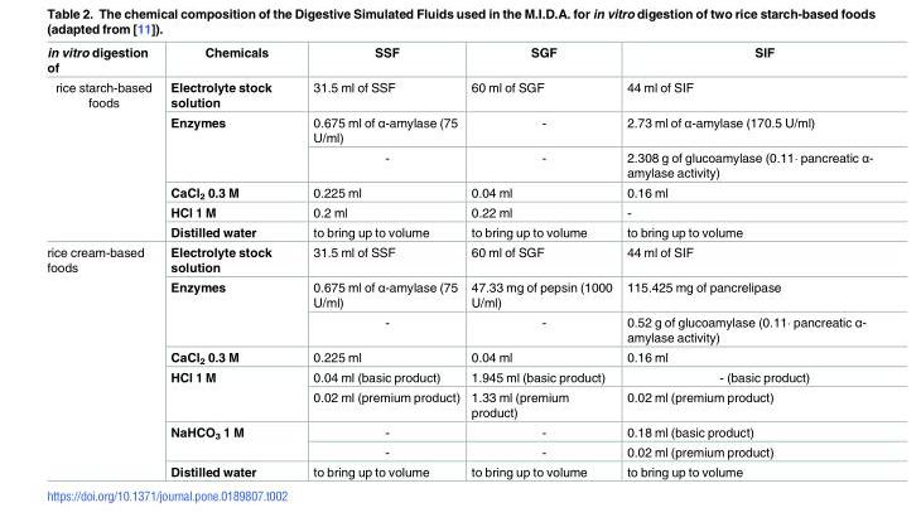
<table><thead><tr><td>in vitro digestion of</td><td>Chemicals</td><td>SSF</td><td>SGF</td><td>SIF</td></tr></thead><tbody><tr><td rowspan="6">rice starch-based foods</td><td>Electrolyte stock solution</td><td>31.5 ml of SSF</td><td>60 ml of SGF</td><td>44 ml of SIF</td></tr><tr><td rowspan="2">Enzymes</td><td>0.675 ml of α-amylase (75 U/ml)</td><td>-</td><td>2.73 ml of α-amylase (170.5 U/ml)</td></tr><tr><td>-</td><td>-</td><td>2.308 g of glucoamylase (0.11∙ pancreatic α- amylase activity)</td></tr><tr><td>CaCl<sub>2</sub> 0.3 M</td><td>0.225 ml</td><td>0.04 ml</td><td>0.16 ml</td></tr><tr><td>HCl 1 M</td><td>0.2 ml</td><td>0.22 ml</td><td>-</td></tr><tr><td>Distilled water</td><td>to bring up to volume</td><td>to bring up to volume</td><td>to bring up to volume</td></tr><tr><td rowspan="9">rice cream-based foods</td><td>Electrolyte stock solution</td><td>31.5 ml of SSF</td><td>60 ml of SGF</td><td>44 ml of SIF</td></tr><tr><td rowspan="2">Enzymes</td><td>0.675 ml of α-amylase (75 U/ml)</td><td>47.33 mg of pepsin (1000 U/ml)</td><td>115.425 mg of pancrelipase</td></tr><tr><td>-</td><td>-</td><td>0.52 g of glucoamylase (0.11∙ pancreatic α- amylase activity)</td></tr><tr><td>CaCl<sub>2</sub> 0.3 M</td><td>0.225 ml</td><td>0.04 ml</td><td>0.16 ml</td></tr><tr><td rowspan="2">HCl 1 M</td><td>0.04 ml (basic product)</td><td>1.945 ml (basic product)</td><td>- (basic product)</td></tr><tr><td>0.02 ml (premium product)</td><td>1.33 ml (premium product)</td><td>0.02 ml (premium product)</td></tr><tr><td rowspan="2">NaHCO<sub>3</sub> 1 M</td><td>-</td><td>-</td><td>0.18 ml (basic product)</td></tr><tr><td>-</td><td>-</td><td>0.02 ml (premium product)</td></tr><tr><td>Distilled water</td><td>to bring up to volume</td><td>to bring up to volume</td><td>to bring up to volume</td></tr></tbody></table>